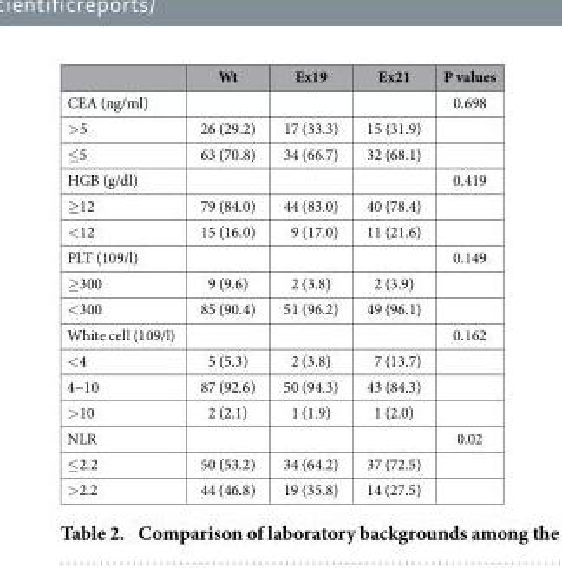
<table><thead><tr><td></td><td>Wt</td><td>Ex19</td><td>Ex21</td><td>P values</td></tr></thead><tbody><tr><td>CEA (ng/ml)</td><td></td><td></td><td></td><td>0.698</td></tr><tr><td>&gt; 5</td><td>26 (29.2)</td><td>17 (33.3)</td><td>15 (31.9)</td><td></td></tr><tr><td>≤ 5</td><td>63 (70.8)</td><td>34 (66.7)</td><td>32 (68.1)</td><td></td></tr><tr><td>HGB (g/dl)</td><td></td><td></td><td></td><td>0.419</td></tr><tr><td>≥ 12</td><td>79 (84.0)</td><td>44 (83.0)</td><td>40 (78.4)</td><td></td></tr><tr><td>&lt; 12</td><td>15 (16.0)</td><td>9 (17.0)</td><td>11 (21.6)</td><td></td></tr><tr><td>PLT (109/l)</td><td></td><td></td><td></td><td>0.149</td></tr><tr><td>≥ 300</td><td>9 (9.6)</td><td>2 (3.8)</td><td>2 (3.9)</td><td></td></tr><tr><td>&lt; 300</td><td>85 (90.4)</td><td>51 (96.2)</td><td>49 (96.1)</td><td></td></tr><tr><td>White cell (109/l)</td><td></td><td></td><td></td><td>0.162</td></tr><tr><td>&lt; 4</td><td>5 (5.3)</td><td>2 (3.8)</td><td>7 (13.7)</td><td></td></tr><tr><td>4~10</td><td>87 (92.6)</td><td>50 (94.3)</td><td>43 (84.3)</td><td></td></tr><tr><td>&gt; 10</td><td>2 (2.1)</td><td>1 (1.9)</td><td>1 (2.0)</td><td></td></tr><tr><td>NLR</td><td></td><td></td><td></td><td>0.02</td></tr><tr><td>≤ 2.2</td><td>50 (53.2)</td><td>34 (64.2)</td><td>37 (72.5)</td><td></td></tr><tr><td>&gt; 2.2</td><td>44 (46.8)</td><td>19 (35.8)</td><td>14 (27.5)</td><td></td></tr></tbody></table>